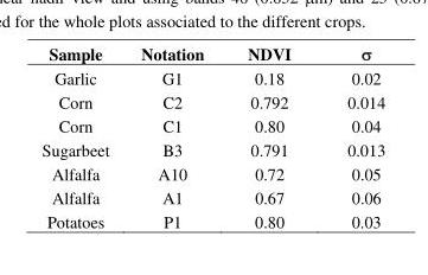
<table><thead><tr><td>Sample</td><td>Notation</td><td>NDVI</td><td></td></tr></thead><tbody><tr><td>Garlic</td><td>G1</td><td>0.18</td><td>0.02</td></tr><tr><td>Corn</td><td>C2</td><td>0.792</td><td>0.014</td></tr><tr><td>Corn</td><td>C1</td><td>0.80</td><td>0.04</td></tr><tr><td>Sugarbeet</td><td>B3</td><td>0.791</td><td>0.013</td></tr><tr><td>Alfalfa</td><td>A10</td><td>0.72</td><td>0.05</td></tr><tr><td>Alfalfa</td><td>A1</td><td>0.67</td><td>0.06</td></tr><tr><td>Potatoes</td><td>P1</td><td>0.80</td><td>0.03</td></tr></tbody></table>